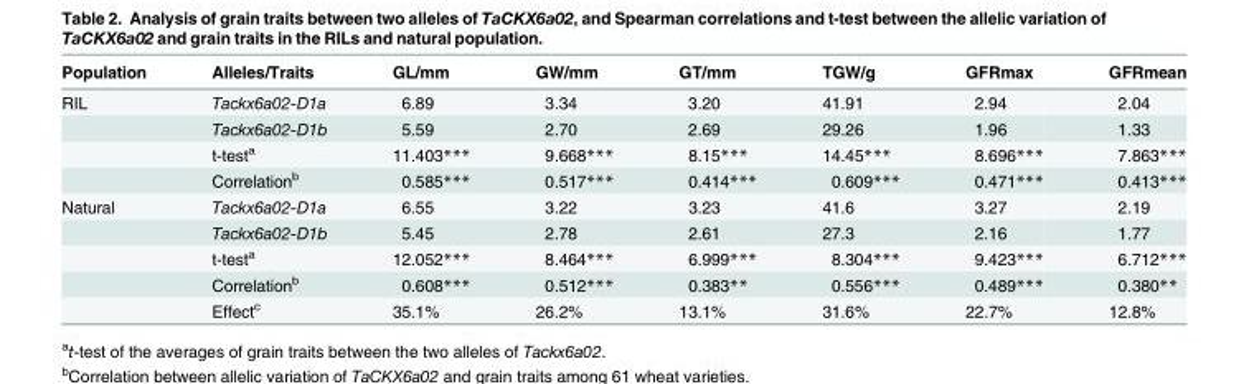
<table><thead><tr><td>Population</td><td>Alleles/Traits</td><td>GL/mm</td><td>GW/mm</td><td>GT/mm</td><td>TGW/g</td><td>GFRmax</td><td>GFRmean</td></tr></thead><tbody><tr><td rowspan="4">RIL</td><td>Tackx6a02-D1a</td><td>6.89</td><td>3.34</td><td>3.20</td><td>41.91</td><td>2.94</td><td>2.04</td></tr><tr><td>Tackx6a02-D1b</td><td>5.59</td><td>2.70</td><td>2.69</td><td>29.26</td><td>1.96</td><td>1.33</td></tr><tr><td>t-test<sup>a</sup></td><td>11.403***</td><td>9.668***</td><td>8.15***</td><td>14.45***</td><td>8.696***</td><td>7.863***</td></tr><tr><td>Correlation<sup>b</sup></td><td>0.585***</td><td>0.517***</td><td>0.414***</td><td>0.609***</td><td>0.471***</td><td>0.413***</td></tr><tr><td rowspan="5">Natural</td><td>Tackx6a02-D1a</td><td>6.55</td><td>3.22</td><td>3.23</td><td>41.6</td><td>3.27</td><td>2.19</td></tr><tr><td>Tackx6a02-D1b</td><td>5.45</td><td>2.78</td><td>2.61</td><td>27.3</td><td>2.16</td><td>1.77</td></tr><tr><td>t-test<sup>a</sup></td><td>12.052***</td><td>8.464***</td><td>6.999***</td><td>8.304***</td><td>9.423***</td><td>6.712***</td></tr><tr><td>Correlation<sup>b</sup></td><td>0.608***</td><td>0.512***</td><td>0.383**</td><td>0.556***</td><td>0.489***</td><td>0.380**</td></tr><tr><td>Effect<sup>c</sup></td><td>35.1%</td><td>26.2%</td><td>13.1%</td><td>31.6%</td><td>22.7%</td><td>12.8%</td></tr></tbody></table>